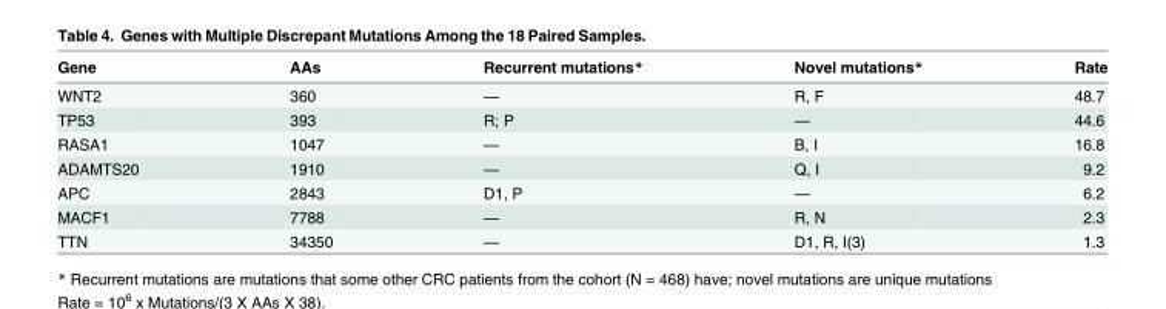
<table><thead><tr><td>Gene</td><td>AAs</td><td>Recurrent mutations*</td><td>Novel mutations*</td><td>Rate</td></tr></thead><tbody><tr><td>WNT2</td><td>360</td><td>—</td><td>R, F</td><td>48.7</td></tr><tr><td>TP53</td><td>393</td><td>R; P</td><td>—</td><td>44.6</td></tr><tr><td>RASA1</td><td>1047</td><td>—</td><td>B, I</td><td>16.8</td></tr><tr><td>ADAMTS20</td><td>1910</td><td>—</td><td>Q, I</td><td>9.2</td></tr><tr><td>APC</td><td>2843</td><td>D1, P</td><td>—</td><td>6.2</td></tr><tr><td>MACF1</td><td>7788</td><td>—</td><td>R, N</td><td>2.3</td></tr><tr><td>TTN</td><td>34350</td><td>—</td><td>D1, R, I(3)</td><td>1.3</td></tr></tbody></table>